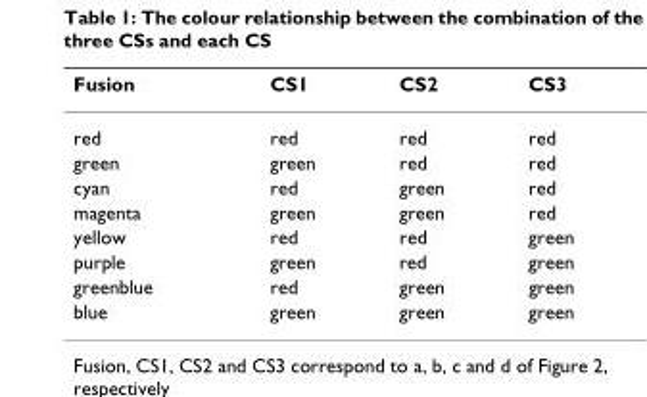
<table><thead><tr><td>Fusion</td><td>CS1</td><td>CS2</td><td>CS3</td></tr></thead><tbody><tr><td>red</td><td>red</td><td>red</td><td>red</td></tr><tr><td>green</td><td>green</td><td>red</td><td>red</td></tr><tr><td>cyan</td><td>red</td><td>green</td><td>red</td></tr><tr><td>magenta</td><td>green</td><td>green</td><td>red</td></tr><tr><td>yellow</td><td>red</td><td>red</td><td>green</td></tr><tr><td>purple</td><td>green</td><td>red</td><td>green</td></tr><tr><td>greenblue</td><td>red</td><td>green</td><td>green</td></tr><tr><td>blue</td><td>green</td><td>green</td><td>green</td></tr></tbody></table>